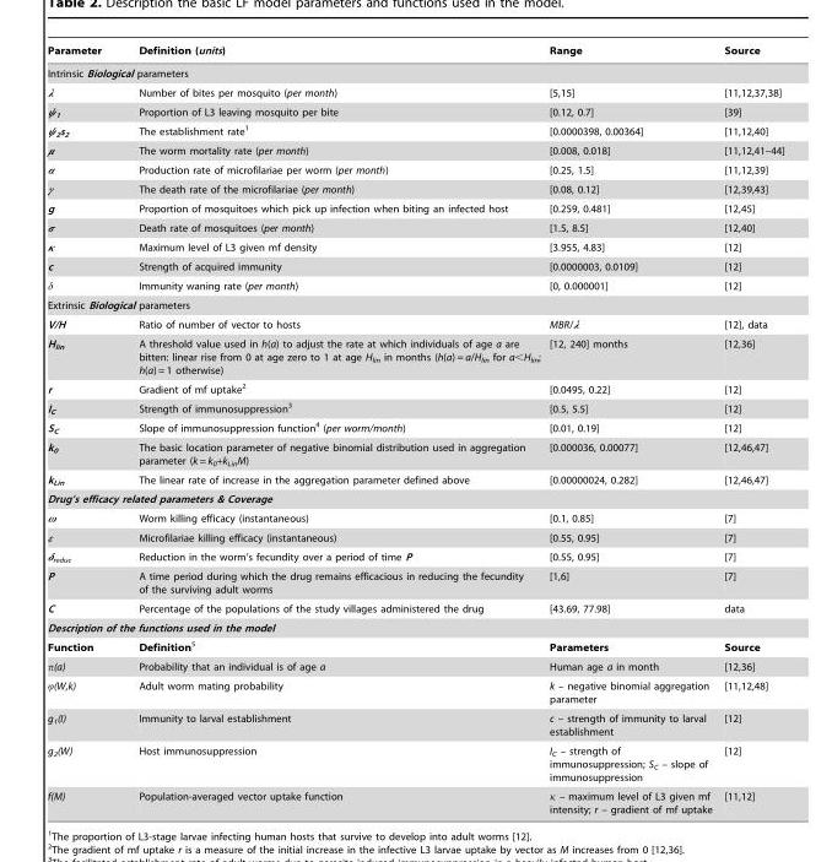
<table><thead><tr><td>Parameter</td><td>Definition (units)</td><td>Range</td><td>Source</td></tr></thead><tbody><tr><td colspan="4">Intrinsic Biological parameters</td></tr><tr><td>λ</td><td>Number of bites per mosquito (per month)</td><td>[5,15]</td><td>[11,12,37,38]</td></tr><tr><td>ψ<sub>1</sub></td><td>Proportion of L3 leaving mosquito per bite</td><td>[0.12, 0.7]</td><td>[39]</td></tr><tr><td>ψ<sub>2</sub>s<sub>2</sub></td><td>The establishment rate<sup>1</sup></td><td>[0.0000398, 0.00364]</td><td>[11,12,40]</td></tr><tr><td>μ</td><td>The worm mortality rate (per month)</td><td>[0.008, 0.018]</td><td>[11,12,41–44]</td></tr><tr><td>α</td><td>Production rate of microfilariae per worm (per month)</td><td>[0.25, 1.5]</td><td>[11,12,39]</td></tr><tr><td>γ</td><td>The death rate of the microfilariae (per month)</td><td>[0.08, 0.12]</td><td>[12,39,43]</td></tr><tr><td>g</td><td>Proportion of mosquitoes which pick up infection when biting an infected host</td><td>[0.259, 0.481]</td><td>[12,45]</td></tr><tr><td>σ</td><td>Death rate of mosquitoes (per month)</td><td>[1.5, 8.5]</td><td>[12,40]</td></tr><tr><td>κ</td><td>Maximum level of L3 given mf density</td><td>[3.955, 4.83]</td><td>[12]</td></tr><tr><td>c</td><td>Strength of acquired immunity</td><td>[0.0000003, 0.0109]</td><td>[12]</td></tr><tr><td>δ</td><td>Immunity waning rate (per month)</td><td>[0, 0.000001]</td><td>[12]</td></tr><tr><td colspan="4">Extrinsic Biological parameters</td></tr><tr><td>V/H</td><td>Ratio of number of vector to hosts</td><td>MBR/λ</td><td>[12], data</td></tr><tr><td>H<sub>lin</sub></td><td>A threshold value used in h(a) to adjust the rate at which individuals of age a are bitten: linear rise from 0 at age zero to 1 at age H<sub>lin</sub> in months (h(a) = a/H<sub>lin</sub> for a&lt;H<sub>lin</sub>; h(a) = 1 otherwise)</td><td>[12, 240] months</td><td>[12,36]</td></tr><tr><td>r</td><td>Gradient of mf uptake<sup>2</sup></td><td>[0.0495, 0.22]</td><td>[12]</td></tr><tr><td>I<sub>C</sub></td><td>Strength of immunosuppression<sup>3</sup></td><td>[0.5, 5.5]</td><td>[12]</td></tr><tr><td>S<sub>C</sub></td><td>Slope of immunosuppression function<sup>4</sup> (per worm/month)</td><td>[0.01, 0.19]</td><td>[12]</td></tr><tr><td>k<sub>0</sub></td><td>The basic location parameter of negative binomial distribution used in aggregation parameter (k = k<sub>0</sub>+k<sub>Lin</sub>M)</td><td>[0.000036, 0.00077]</td><td>[12,46,47]</td></tr><tr><td>k<sub>Lin</sub></td><td>The linear rate of increase in the aggregation parameter defined above</td><td>[0.00000024, 0.282]</td><td>[12,46,47]</td></tr><tr><td colspan="4">Drug’s efficacy related parameters &amp; Coverage</td></tr><tr><td>ω</td><td>Worm killing efficacy (instantaneous)</td><td>[0.1, 0.85]</td><td>[7]</td></tr><tr><td>ε</td><td>Microfilariae killing efficacy (instantaneous)</td><td>[0.55, 0.95]</td><td>[7]</td></tr><tr><td>δ<sub>reduc</sub></td><td>Reduction in the worm’s fecundity over a period of time P</td><td>[0.55, 0.95]</td><td>[7]</td></tr><tr><td>P</td><td>A time period during which the drug remains efficacious in reducing the fecundity of the surviving adult worms</td><td>[1,6]</td><td>[7]</td></tr><tr><td>C</td><td>Percentage of the populations of the study villages administered the drug</td><td>[43.69, 77.98]</td><td>data</td></tr><tr><td colspan="4">Description of the functions used in the model</td></tr><tr><td>Function</td><td>Definition5</td><td>Parameters</td><td>Source</td></tr><tr><td>π(a)</td><td>Probability that an individual is of age a</td><td>Human age a in month</td><td>[12,36]</td></tr><tr><td>φ(W,k)</td><td>Adult worm mating probability</td><td>k – negative binomial aggregation parameter</td><td>[11,12,48]</td></tr><tr><td>g<sub>1</sub>(I)</td><td>Immunity to larval establishment</td><td>c – strength of immunity to larval establishment</td><td>[12]</td></tr><tr><td>g<sub>2</sub>(W)</td><td>Host immunosuppression</td><td>I<sub>C</sub> – strength of immunosuppression; S<sub>C</sub> – slope of immunosuppression</td><td>[12]</td></tr><tr><td>f(M)</td><td>Population-averaged vector uptake function</td><td>κ – maximum level of L3 given mf intensity; r – gradient of mf uptake</td><td>[11,12]</td></tr></tbody></table>